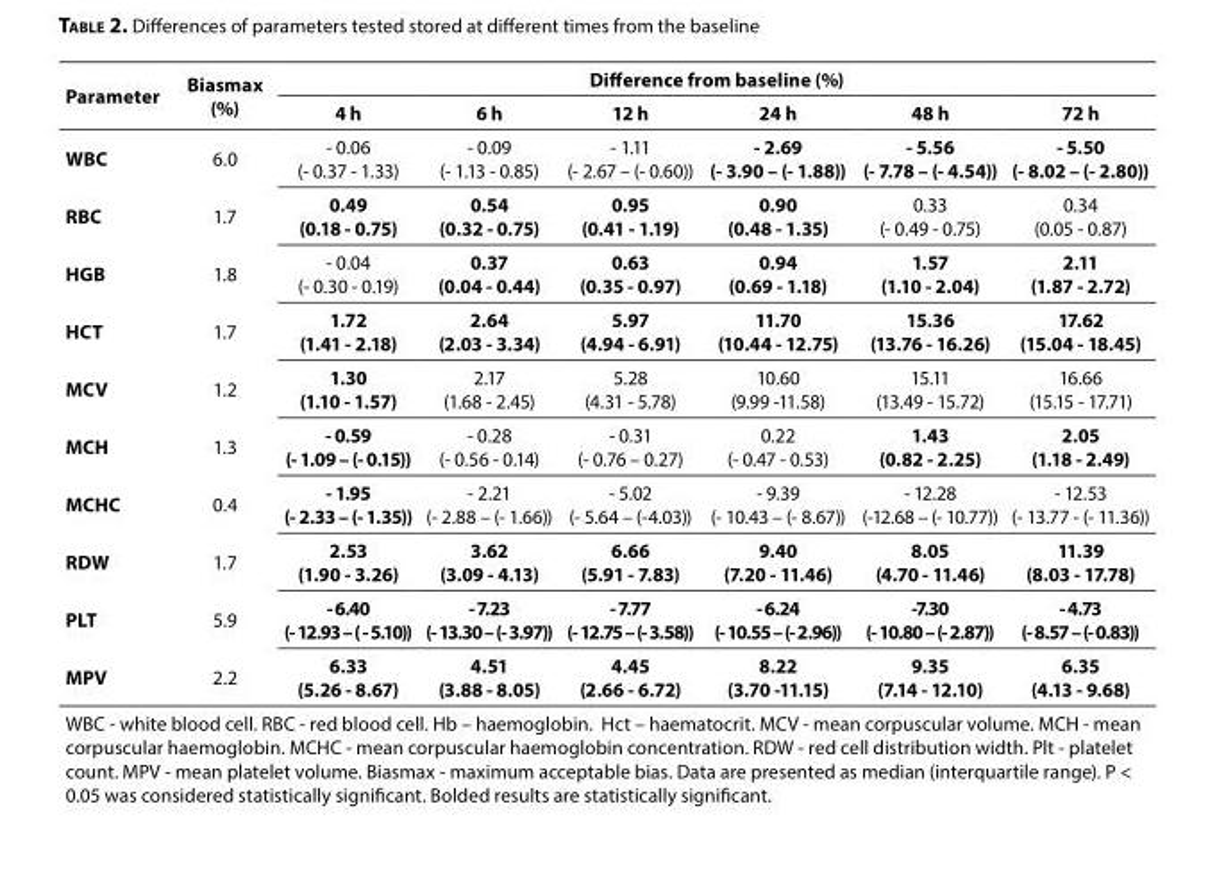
<table><thead><tr><td rowspan="2">Parameter</td><td rowspan="2">Biasmax (%)</td><td colspan="6">Difference from baseline (%)</td></tr><tr><td>4 h</td><td>6 h</td><td>12 h</td><td>24 h</td><td>48 h</td><td>72 h</td></tr></thead><tbody><tr><td>WBC</td><td>6.0</td><td>- 0.06 (- 0.37 - 1.33)</td><td>- 0.09 (- 1.13 - 0.85)</td><td>- 1.11 (- 2.67 – (- 0.60))</td><td>- 2.69 (- 3.90 – (- 1.88))</td><td>- 5.56 (- 7.78 – (- 4.54))</td><td>- 5.50 (- 8.02 – (- 2.80))</td></tr><tr><td>RBC</td><td>1.7</td><td>0.49 (0.18 - 0.75)</td><td>0.54 (0.32 - 0.75)</td><td>0.95 (0.41 - 1.19)</td><td>0.90 (0.48 - 1.35)</td><td>0.33 (- 0.49 - 0.75)</td><td>0.34 (0.05 - 0.87)</td></tr><tr><td>HGB</td><td>1.8</td><td>- 0.04 (- 0.30 - 0.19)</td><td>0.37 (0.04 - 0.44)</td><td>0.63 (0.35 - 0.97)</td><td>0.94 (0.69 - 1.18)</td><td>1.57 (1.10 - 2.04)</td><td>2.11 (1.87 - 2.72)</td></tr><tr><td>HCT</td><td>1.7</td><td>1.72 (1.41 - 2.18)</td><td>2.64 (2.03 - 3.34)</td><td>5.97 (4.94 - 6.91)</td><td>11.70 (10.44 - 12.75)</td><td>15.36 (13.76 - 16.26)</td><td>17.62 (15.04 - 18.45)</td></tr><tr><td>MCV</td><td>1.2</td><td>1.30 (1.10 - 1.57)</td><td>2.17 (1.68 - 2.45)</td><td>5.28 (4.31 - 5.78)</td><td>10.60 (9.99 -11.58)</td><td>15.11 (13.49 - 15.72)</td><td>16.66 (15.15 - 17.71)</td></tr><tr><td>MCH</td><td>1.3</td><td>- 0.59 (- 1.09 – (- 0.15))</td><td>- 0.28 (- 0.56 - 0.14)</td><td>- 0.31 (- 0.76 – 0.27)</td><td>0.22 (- 0.47 - 0.53)</td><td>1.43 (0.82 - 2.25)</td><td>2.05 (1.18 - 2.49)</td></tr><tr><td>MCHC</td><td>0.4</td><td>- 1.95 (- 2.33 – (- 1.35))</td><td>- 2.21 (- 2.88 – (- 1.66))</td><td>- 5.02 (- 5.64 – (-4.03))</td><td>- 9.39 (- 10.43 – (- 8.67))</td><td>- 12.28 (-12.68 – (- 10.77))</td><td>- 12.53 (- 13.77 - (- 11.36))</td></tr><tr><td>RDW</td><td>1.7</td><td>2.53 (1.90 - 3.26)</td><td>3.62 (3.09 - 4.13)</td><td>6.66 (5.91 - 7.83)</td><td>9.40 (7.20 - 11.46)</td><td>8.05 (4.70 - 11.46)</td><td>11.39 (8.03 - 17.78)</td></tr><tr><td>PLT</td><td>5.9</td><td>- 6.40 (- 12.93 – ( - 5.10))</td><td>- 7.23 (- 13.30 – (- 3.97))</td><td>- 7.77 (- 12.75 – (- 3.58))</td><td>- 6.24 (- 10.55 – (- 2.96))</td><td>-7.30 (- 10.80 – (- 2.87))</td><td>- 4.73 (- 8.57 – (- 0.83))</td></tr><tr><td>MPV</td><td>2.2</td><td>6.33 (5.26 - 8.67)</td><td>4.51 (3.88 - 8.05)</td><td>4.45 (2.66 - 6.72)</td><td>8.22 (3.70 -11.15)</td><td>9.35 (7.14 - 12.10)</td><td>6.35 (4.13 - 9.68)</td></tr><tr><td colspan="8">WBC - white blood cell. RBC - red blood cell. Hb – haemoglobin. Hct – haematocrit. MCV - mean corpuscular volume. MCH - mean corpuscular haemoglobin. MCHC - mean corpuscular haemoglobin concentration. RDW - red cell distribution width. Plt - platelet count. MPV - mean platelet volume. Biasmax - maximum acceptable bias. Data are presented as median (interquartile range). P &lt; 0.05 was considered statistically significant. Bolded results are statistically significant.</td></tr></tbody></table>